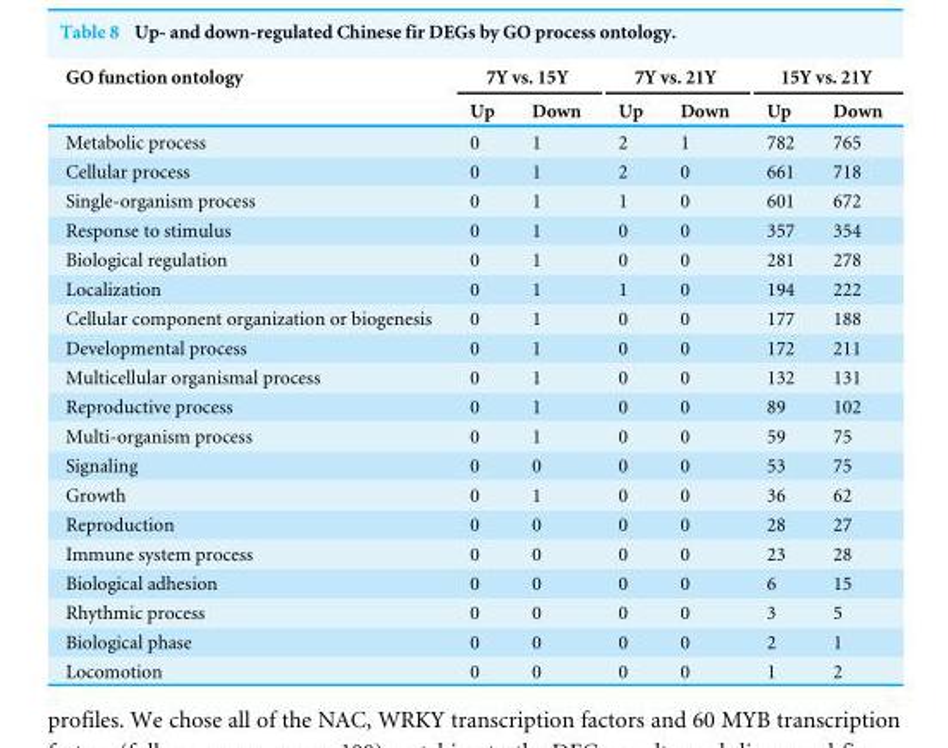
<table><thead><tr><td rowspan="2">GO function ontology</td><td colspan="2">7Y vs. 15Y</td><td colspan="2">7Y vs. 21Y</td><td colspan="2">15Y vs. 21Y</td></tr><tr><td>Up</td><td>Down</td><td>Up</td><td>Down</td><td>Up</td><td>Down</td></tr></thead><tbody><tr><td>Metabolic process</td><td>0</td><td>1</td><td>2</td><td>1</td><td>782</td><td>765</td></tr><tr><td>Cellular process</td><td>0</td><td>1</td><td>2</td><td>0</td><td>661</td><td>718</td></tr><tr><td>Single-organism process</td><td>0</td><td>1</td><td>1</td><td>0</td><td>601</td><td>672</td></tr><tr><td>Response to stimulus</td><td>0</td><td>1</td><td>0</td><td>0</td><td>357</td><td>354</td></tr><tr><td>Biological regulation</td><td>0</td><td>1</td><td>0</td><td>0</td><td>281</td><td>278</td></tr><tr><td>Localization</td><td>0</td><td>1</td><td>1</td><td>0</td><td>194</td><td>222</td></tr><tr><td>Cellular component organization or biogenesis</td><td>0</td><td>1</td><td>0</td><td>0</td><td>177</td><td>188</td></tr><tr><td>Developmental process</td><td>0</td><td>1</td><td>0</td><td>0</td><td>172</td><td>211</td></tr><tr><td>Multicellular organismal process</td><td>0</td><td>1</td><td>0</td><td>0</td><td>132</td><td>131</td></tr><tr><td>Reproductive process</td><td>0</td><td>1</td><td>0</td><td>0</td><td>89</td><td>102</td></tr><tr><td>Multi-organism process</td><td>0</td><td>1</td><td>0</td><td>0</td><td>59</td><td>75</td></tr><tr><td>Signaling</td><td>0</td><td>0</td><td>0</td><td>0</td><td>53</td><td>75</td></tr><tr><td>Growth</td><td>0</td><td>1</td><td>0</td><td>0</td><td>36</td><td>62</td></tr><tr><td>Reproduction</td><td>0</td><td>0</td><td>0</td><td>0</td><td>28</td><td>27</td></tr><tr><td>Immune system process</td><td>0</td><td>0</td><td>0</td><td>0</td><td>23</td><td>28</td></tr><tr><td>Biological adhesion</td><td>0</td><td>0</td><td>0</td><td>0</td><td>6</td><td>15</td></tr><tr><td>Rhythmic process</td><td>0</td><td>0</td><td>0</td><td>0</td><td>3</td><td>5</td></tr><tr><td>Biological phase</td><td>0</td><td>0</td><td>0</td><td>0</td><td>2</td><td>1</td></tr><tr><td>Locomotion</td><td>0</td><td>0</td><td>0</td><td>0</td><td>1</td><td>2</td></tr></tbody></table>